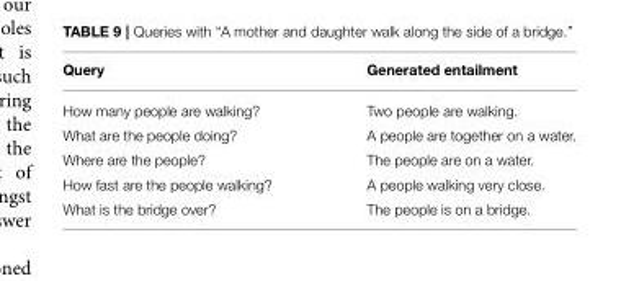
<table><thead><tr><td>Query</td><td>Generated entailment</td></tr></thead><tbody><tr><td>How many people are walking?</td><td>Two people are walking.</td></tr><tr><td>What are the people doing?</td><td>A people are together on a water.</td></tr><tr><td>Where are the people?</td><td>The people are on a water.</td></tr><tr><td>How fast are the people walking?</td><td>A people walking very close.</td></tr><tr><td>What is the bridge over?</td><td>The people is on a bridge.</td></tr></tbody></table>